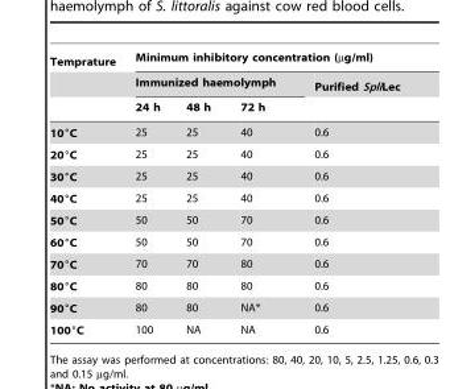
<table><thead><tr><td rowspan="3">Temprature</td><td colspan="4">Minimum inhibitory concentration (µg/ml)</td></tr><tr><td colspan="3">Immunized haemolymph</td><td rowspan="2">Purified SpliLec</td></tr><tr><td>24 h</td><td>48 h</td><td>72 h</td></tr></thead><tbody><tr><td>10°C</td><td>25</td><td>25</td><td>40</td><td>0.6</td></tr><tr><td>20°C</td><td>25</td><td>25</td><td>40</td><td>0.6</td></tr><tr><td>30°C</td><td>25</td><td>25</td><td>40</td><td>0.6</td></tr><tr><td>40°C</td><td>25</td><td>25</td><td>40</td><td>0.6</td></tr><tr><td>50°C</td><td>50</td><td>50</td><td>70</td><td>0.6</td></tr><tr><td>60°C</td><td>50</td><td>50</td><td>70</td><td>0.6</td></tr><tr><td>70°C</td><td>70</td><td>70</td><td>80</td><td>0.6</td></tr><tr><td>80°C</td><td>80</td><td>80</td><td>80</td><td>0.6</td></tr><tr><td>90°C</td><td>80</td><td>80</td><td>NA*</td><td>0.6</td></tr><tr><td>100°C</td><td>100</td><td>NA</td><td>NA</td><td>0.6</td></tr></tbody></table>